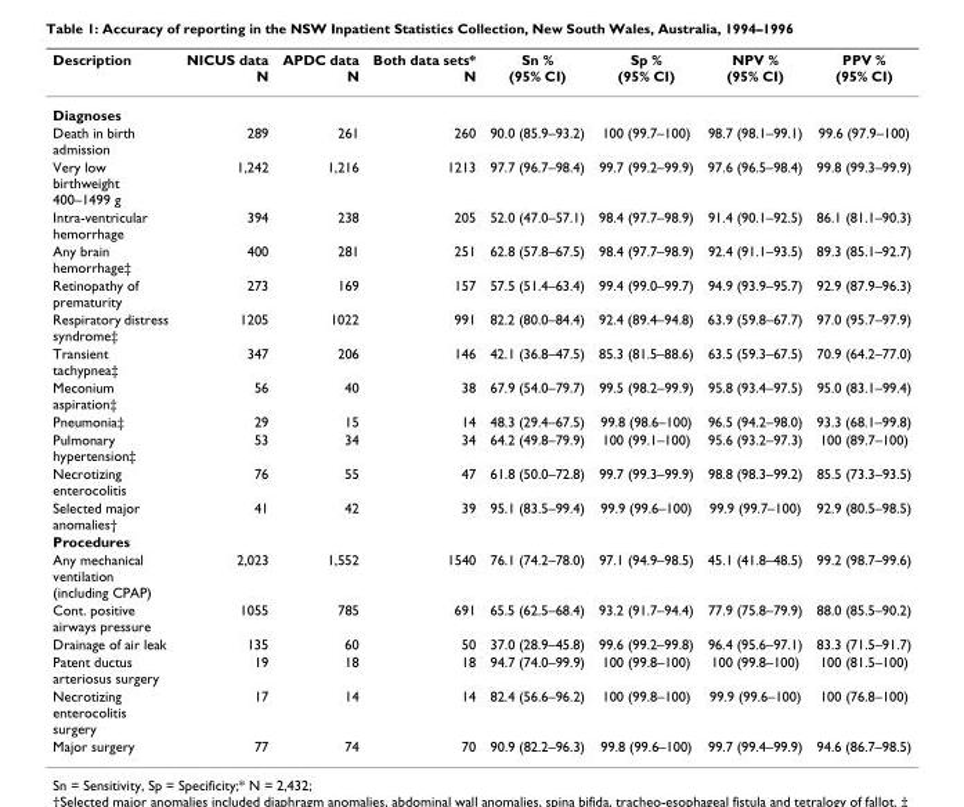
<table><thead><tr><td>Description</td><td>NICUS data N</td><td>APDC data N</td><td>Both data sets* N</td><td>Sn % (95% CI)</td><td>Sp % (95% CI)</td><td>NPV % (95% CI)</td><td>PPV % (95% CI)</td></tr></thead><tbody><tr><td colspan="8">Diagnoses</td></tr><tr><td>Death in birth admission</td><td>289</td><td>261</td><td>260</td><td>90.0 (85.9–93.2)</td><td>100 (99.7–100)</td><td>98.7 (98.1–99.1)</td><td>99.6 (97.9–100)</td></tr><tr><td>Very low birthweight 400–1499 g</td><td>1,242</td><td>1,216</td><td>1213</td><td>97.7 (96.7–98.4)</td><td>99.7 (99.2–99.9)</td><td>97.6 (96.5–98.4)</td><td>99.8 (99.3–99.9)</td></tr><tr><td>Intra-ventricular hemorrhage</td><td>394</td><td>238</td><td>205</td><td>52.0 (47.0–57.1)</td><td>98.4 (97.7–98.9)</td><td>91.4 (90.1–92.5)</td><td>86.1 (81.1–90.3)</td></tr><tr><td>Any brain hemorrhage‡</td><td>400</td><td>281</td><td>251</td><td>62.8 (57.8–67.5)</td><td>98.4 (97.7–98.9)</td><td>92.4 (91.1–93.5)</td><td>89.3 (85.1–92.7)</td></tr><tr><td>Retinopathy of prematurity</td><td>273</td><td>169</td><td>157</td><td>57.5 (51.4–63.4)</td><td>99.4 (99.0–99.7)</td><td>94.9 (93.9–95.7)</td><td>92.9 (87.9–96.3)</td></tr><tr><td>Respiratory distress syndrome‡</td><td>1205</td><td>1022</td><td>991</td><td>82.2 (80.0–84.4)</td><td>92.4 (89.4–94.8)</td><td>63.9 (59.8–67.7)</td><td>97.0 (95.7–97.9)</td></tr><tr><td>Transient tachypnea‡</td><td>347</td><td>206</td><td>146</td><td>42.1 (36.8–47.5)</td><td>85.3 (81.5–88.6)</td><td>63.5 (59.3–67.5)</td><td>70.9 (64.2–77.0)</td></tr><tr><td>Meconium aspiration‡</td><td>56</td><td>40</td><td>38</td><td>67.9 (54.0–79.7)</td><td>99.5 (98.2–99.9)</td><td>95.8 (93.4–97.5)</td><td>95.0 (83.1–99.4)</td></tr><tr><td>Pneumonia‡</td><td>29</td><td>15</td><td>14</td><td>48.3 (29.4–67.5)</td><td>99.8 (98.6–100)</td><td>96.5 (94.2–98.0)</td><td>93.3 (68.1–99.8)</td></tr><tr><td>Pulmonary hypertension‡</td><td>53</td><td>34</td><td>34</td><td>64.2 (49.8–79.9)</td><td>100 (99.1–100)</td><td>95.6 (93.2–97.3)</td><td>100 (89.7–100)</td></tr><tr><td>Necrotizing enterocolitis</td><td>76</td><td>55</td><td>47</td><td>61.8 (50.0–72.8)</td><td>99.7 (99.3–99.9)</td><td>98.8 (98.3–99.2)</td><td>85.5 (73.3–93.5)</td></tr><tr><td>Selected major anomalies†</td><td>41</td><td>42</td><td>39</td><td>95.1 (83.5–99.4)</td><td>99.9 (99.6–100)</td><td>99.9 (99.7–100)</td><td>92.9 (80.5–98.5)</td></tr><tr><td colspan="8">Procedures</td></tr><tr><td>Any mechanical ventilation (including CPAP)</td><td>2,023</td><td>1,552</td><td>1540</td><td>76.1 (74.2–78.0)</td><td>97.1 (94.9–98.5)</td><td>45.1 (41.8–48.5)</td><td>99.2 (98.7–99.6)</td></tr><tr><td>Cont. positive airways pressure</td><td>1055</td><td>785</td><td>691</td><td>65.5 (62.5–68.4)</td><td>93.2 (91.7–94.4)</td><td>77.9 (75.8–79.9)</td><td>88.0 (85.5–90.2)</td></tr><tr><td>Drainage of air leak</td><td>135</td><td>60</td><td>50</td><td>37.0 (28.9–45.8)</td><td>99.6 (99.2–99.8)</td><td>96.4 (95.6–97.1)</td><td>83.3 (71.5–91.7)</td></tr><tr><td>Patent ductus arteriosus surgery</td><td>19</td><td>18</td><td>18</td><td>94.7 (74.0–99.9)</td><td>100 (99.8–100)</td><td>100 (99.8–100)</td><td>100 (81.5–100)</td></tr><tr><td>Necrotizing enterocolitis surgery</td><td>17</td><td>14</td><td>14</td><td>82.4 (56.6–96.2)</td><td>100 (99.8–100)</td><td>99.9 (99.6–100)</td><td>100 (76.8–100)</td></tr><tr><td>Major surgery</td><td>77</td><td>74</td><td>70</td><td>90.9 (82.2–96.3)</td><td>99.8 (99.6–100)</td><td>99.7 (99.4–99.9)</td><td>94.6 (86.7–98.5)</td></tr></tbody></table>